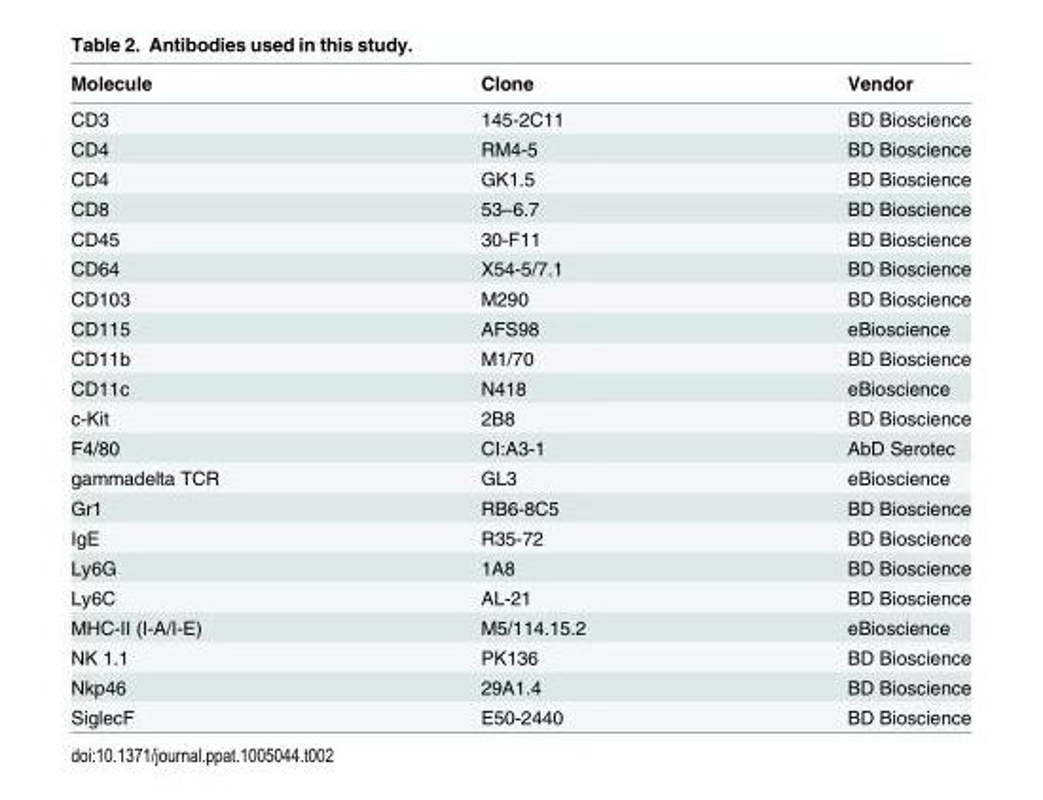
<table><thead><tr><td>Molecule</td><td>Clone</td><td>Vendor</td></tr></thead><tbody><tr><td>CD3</td><td>145-2C11</td><td>BD Bioscience</td></tr><tr><td>CD4</td><td>RM4-5</td><td>BD Bioscience</td></tr><tr><td>CD4</td><td>GK1.5</td><td>BD Bioscience</td></tr><tr><td>CD8</td><td>53–6.7</td><td>BD Bioscience</td></tr><tr><td>CD45</td><td>30-F11</td><td>BD Bioscience</td></tr><tr><td>CD64</td><td>X54-5/7.1</td><td>BD Bioscience</td></tr><tr><td>CD103</td><td>M290</td><td>BD Bioscience</td></tr><tr><td>CD115</td><td>AFS98</td><td>eBioscience</td></tr><tr><td>CD11b</td><td>M1/70</td><td>BD Bioscience</td></tr><tr><td>CD11c</td><td>N418</td><td>eBioscience</td></tr><tr><td>c-Kit</td><td>2B8</td><td>BD Bioscience</td></tr><tr><td>F4/80</td><td>CI:A3-1</td><td>AbD Serotec</td></tr><tr><td>gammadelta TCR</td><td>GL3</td><td>eBioscience</td></tr><tr><td>Gr1</td><td>RB6-8C5</td><td>BD Bioscience</td></tr><tr><td>IgE</td><td>R35-72</td><td>BD Bioscience</td></tr><tr><td>Ly6G</td><td>1A8</td><td>BD Bioscience</td></tr><tr><td>Ly6C</td><td>AL-21</td><td>BD Bioscience</td></tr><tr><td>MHC-II (I-A/I-E)</td><td>M5/114.15.2</td><td>eBioscience</td></tr><tr><td>NK 1.1</td><td>PK136</td><td>BD Bioscience</td></tr><tr><td>Nkp46</td><td>29A1.4</td><td>BD Bioscience</td></tr><tr><td>SiglecF</td><td>E50-2440</td><td>BD Bioscience</td></tr></tbody></table>